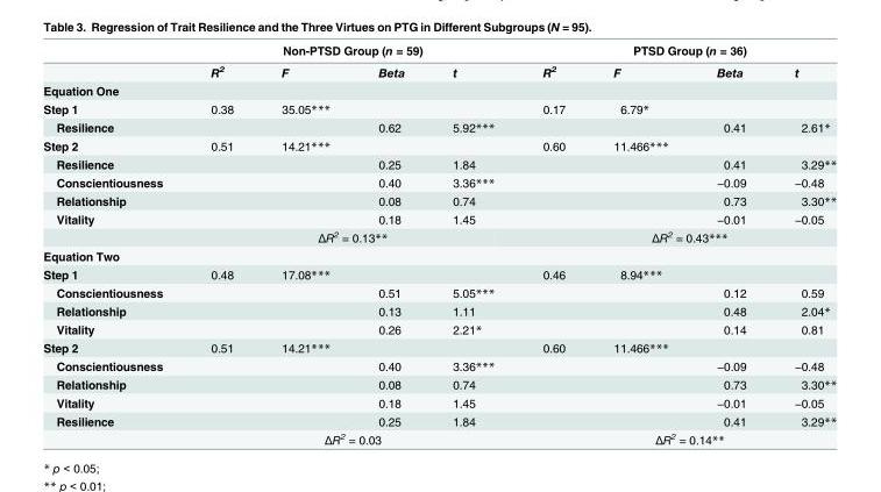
<table><thead><tr><td rowspan="2"></td><td colspan="4">Non-PTSD Group (n = 59)</td><td colspan="4">PTSD Group (n = 36)</td></tr><tr><td>R<sup>2</sup></td><td>F</td><td>Beta</td><td>t</td><td>R<sup>2</sup></td><td>F</td><td>Beta</td><td>t</td></tr></thead><tbody><tr><td colspan="9">Equation One</td></tr><tr><td>Step 1</td><td>0.38</td><td>35.05***</td><td></td><td></td><td>0.17</td><td>6.79*</td><td></td><td></td></tr><tr><td>Resilience</td><td></td><td></td><td>0.62</td><td>5.92***</td><td></td><td></td><td>0.41</td><td>2.61*</td></tr><tr><td>Step 2</td><td>0.51</td><td>14.21***</td><td></td><td></td><td>0.60</td><td>11.466***</td><td></td><td></td></tr><tr><td>Resilience</td><td></td><td></td><td>0.25</td><td>1.84</td><td></td><td></td><td>0.41</td><td>3.29**</td></tr><tr><td>Conscientiousness</td><td></td><td></td><td>0.40</td><td>3.36***</td><td></td><td></td><td>−0.09</td><td>−0.48</td></tr><tr><td>Relationship</td><td></td><td></td><td>0.08</td><td>0.74</td><td></td><td></td><td>0.73</td><td>3.30**</td></tr><tr><td rowspan="2">Vitality</td><td></td><td></td><td>0.18</td><td>1.45</td><td></td><td></td><td>−0.01</td><td>−0.05</td></tr><tr><td colspan="4">ΔR<sup>2</sup> = 0.13**</td><td colspan="4">ΔR<sup>2</sup> = 0.43***</td></tr><tr><td colspan="9">Equation Two</td></tr><tr><td>Step 1</td><td>0.48</td><td>17.08***</td><td></td><td></td><td>0.46</td><td>8.94***</td><td></td><td></td></tr><tr><td>Conscientiousness</td><td></td><td></td><td>0.51</td><td>5.05***</td><td></td><td></td><td>0.12</td><td>0.59</td></tr><tr><td>Relationship</td><td></td><td></td><td>0.13</td><td>1.11</td><td></td><td></td><td>0.48</td><td>2.04*</td></tr><tr><td>Vitality</td><td></td><td></td><td>0.26</td><td>2.21*</td><td></td><td></td><td>0.14</td><td>0.81</td></tr><tr><td>Step 2</td><td>0.51</td><td>14.21***</td><td></td><td></td><td>0.60</td><td>11.466***</td><td></td><td></td></tr><tr><td>Conscientiousness</td><td></td><td></td><td>0.40</td><td>3.36***</td><td></td><td></td><td>−0.09</td><td>−0.48</td></tr><tr><td>Relationship</td><td></td><td></td><td>0.08</td><td>0.74</td><td></td><td></td><td>0.73</td><td>3.30**</td></tr><tr><td>Vitality</td><td></td><td></td><td>0.18</td><td>1.45</td><td></td><td></td><td>−0.01</td><td>−0.05</td></tr><tr><td rowspan="2">Resilience</td><td></td><td></td><td>0.25</td><td>1.84</td><td></td><td></td><td>0.41</td><td>3.29**</td></tr><tr><td colspan="4">ΔR<sup>2</sup> = 0.03</td><td colspan="4">ΔR<sup>2</sup> = 0.14**</td></tr></tbody></table>